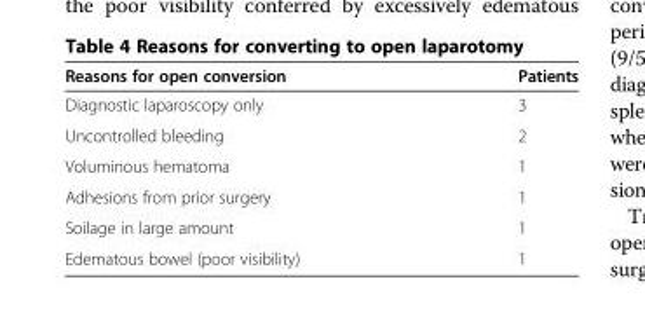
<table><thead><tr><td>Reasons for open conversion</td><td>Patients</td></tr></thead><tbody><tr><td>Diagnostic laparoscopy only</td><td>3</td></tr><tr><td>Uncontrolled bleeding</td><td>2</td></tr><tr><td>Voluminous hematoma</td><td>1</td></tr><tr><td>Adhesions from prior surgery</td><td>1</td></tr><tr><td>Soilage in large amount</td><td>1</td></tr><tr><td>Edematous bowel (poor visibility)</td><td>1</td></tr></tbody></table>